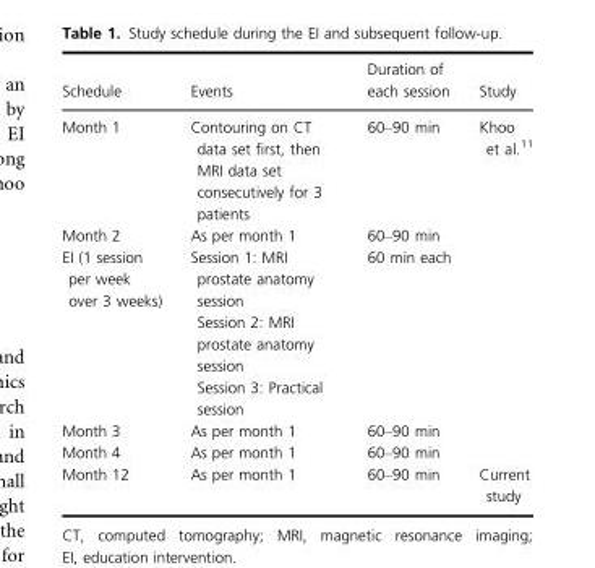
<table><thead><tr><td>Schedule</td><td>Events</td><td>Duration of each session</td><td>Study</td></tr></thead><tbody><tr><td>Month 1</td><td>Contouring on CT data set first, then MRI data set consecutively for 3 patients</td><td>60–90 min</td><td rowspan="5">Khoo et al.<sup>11</sup></td></tr><tr><td>Month 2</td><td>As per month 1</td><td>60–90 min</td></tr><tr><td>EI (1 session per week over 3 weeks)</td><td>Session 1: MRI prostate anatomy session Session 2: MRI prostate anatomy session Session 3: Practical session</td><td>60 min each</td></tr><tr><td>Month 3</td><td>As per month 1</td><td>60–90 min</td></tr><tr><td>Month 4</td><td>As per month 1</td><td>60–90 min</td></tr><tr><td>Month 12</td><td>As per month 1</td><td>60–90 min</td><td>Current study</td></tr></tbody></table>